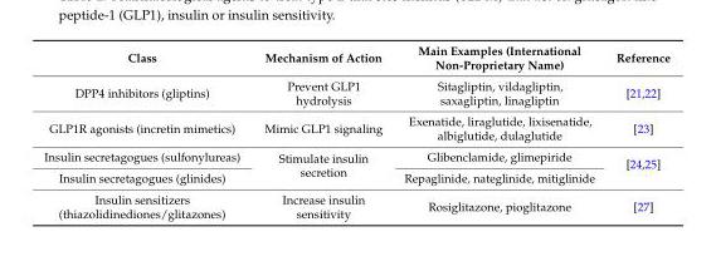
<table><thead><tr><td>Class</td><td>Mechanism of Action</td><td>Main Examples (International Non-Proprietary Name)</td><td>Reference</td></tr></thead><tbody><tr><td>DPP4 inhibitors (gliptins)</td><td>Prevent GLP1 hydrolysis</td><td>Sitagliptin, vildagliptin, saxagliptin, linagliptin</td><td>[21,22]</td></tr><tr><td>GLP1R agonists (incretin mimetics)</td><td>Mimic GLP1 signaling</td><td>Exenatide, liraglutide, lixisenatide, albiglutide, dulaglutide</td><td>[23]</td></tr><tr><td>Insulin secretagogues (sulfonylureas)</td><td rowspan="2">Stimulate insulin secretion</td><td>Glibenclamide, glimepiride</td><td rowspan="2">[24,25]</td></tr><tr><td>Insulin secretagogues (glinides)</td><td>Repaglinide, nateglinide, mitiglinide</td></tr><tr><td>Insulin sensitizers (thiazolidinediones/glitazones)</td><td>Increase insulin sensitivity</td><td>Rosiglitazone, pioglitazone</td><td>[27]</td></tr></tbody></table>